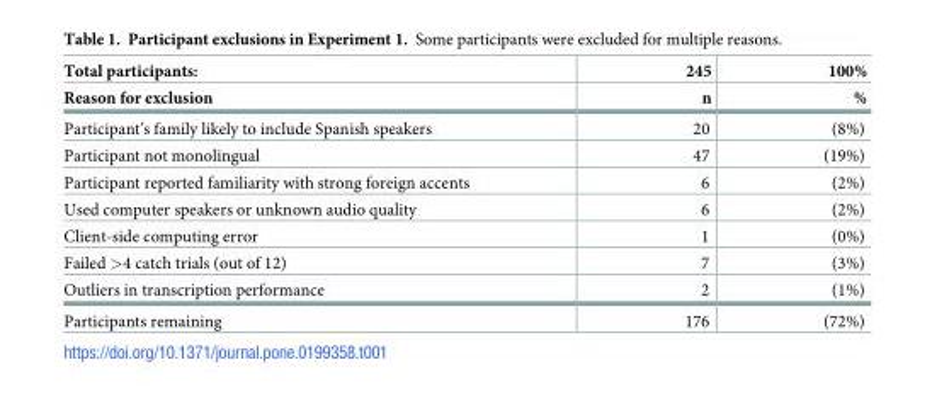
<table><thead><tr><td rowspan="2">Total participants: Reason for exclusion</td><td rowspan="2">245 n</td><td rowspan="2">100% %</td></tr><tr></tr></thead><tbody><tr><td>Participant’s family likely to include Spanish speakers</td><td>20</td><td>(8%)</td></tr><tr><td>Participant not monolingual</td><td>47</td><td>(19%)</td></tr><tr><td>Participant reported familiarity with strong foreign accents</td><td>6</td><td>(2%)</td></tr><tr><td>Used computer speakers or unknown audio quality</td><td>6</td><td>(2%)</td></tr><tr><td>Client-side computing error</td><td>1</td><td>(0%)</td></tr><tr><td>Failed &gt;4 catch trials (out of 12)</td><td>7</td><td>(3%)</td></tr><tr><td>Outliers in transcription performance</td><td>2</td><td>(1%)</td></tr><tr><td>Participants remaining</td><td>176</td><td>(72%)</td></tr></tbody></table>